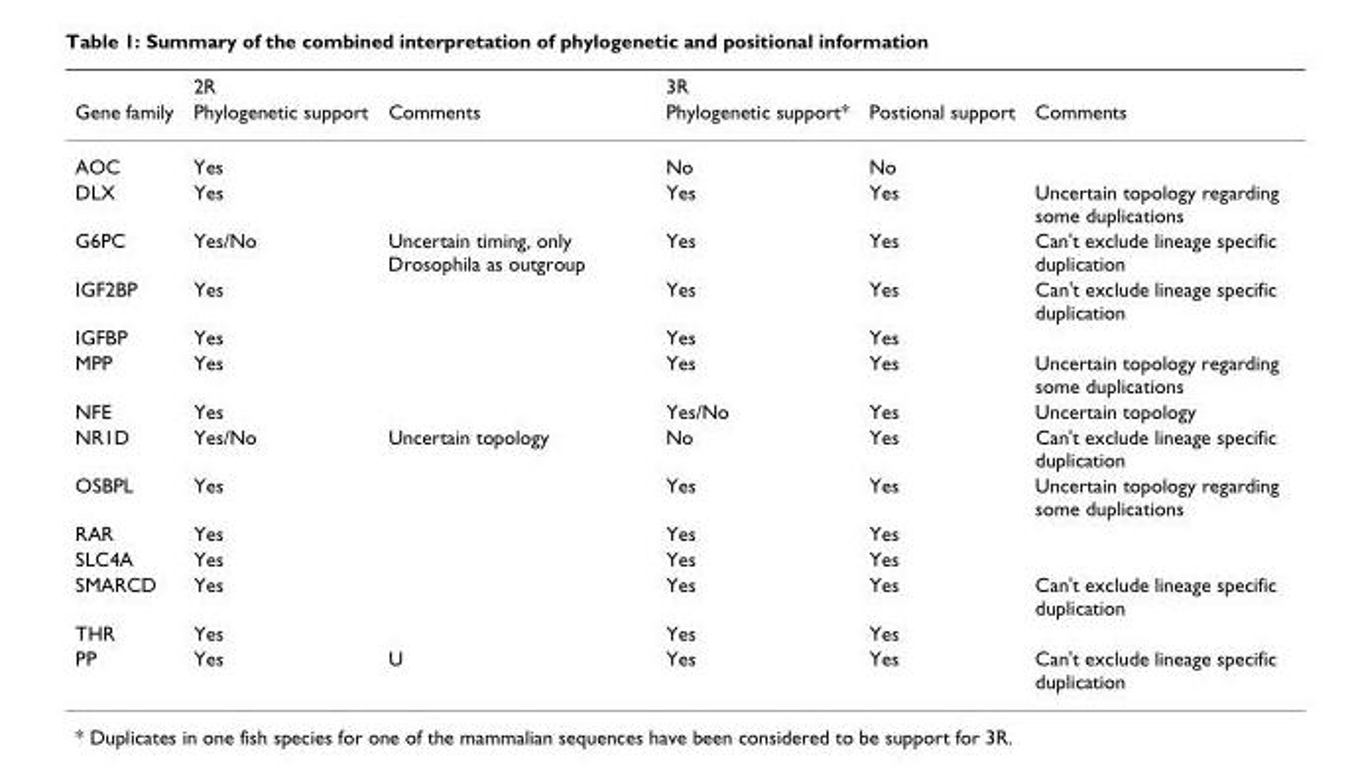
<table><thead><tr><td rowspan="2">Gene family</td><td colspan="2">2R</td><td colspan="3">3R</td></tr><tr><td>Phylogenetic support</td><td>Comments</td><td>Phylogenetic support*</td><td>Postional support</td><td>Comments</td></tr></thead><tbody><tr><td>AOC</td><td>Yes</td><td></td><td>No</td><td>No</td><td></td></tr><tr><td>DLX</td><td>Yes</td><td></td><td>Yes</td><td>Yes</td><td>Uncertain topology regarding some duplications</td></tr><tr><td>G6PC</td><td>Yes/No</td><td>Uncertain timing, only Drosophila as outgroup</td><td>Yes</td><td>Yes</td><td>Can&#x27;t exclude lineage specific duplication</td></tr><tr><td>IGF2BP</td><td>Yes</td><td></td><td>Yes</td><td>Yes</td><td>Can&#x27;t exclude lineage specific duplication</td></tr><tr><td>IGFBP</td><td>Yes</td><td></td><td>Yes</td><td>Yes</td><td></td></tr><tr><td>MPP</td><td>Yes</td><td></td><td>Yes</td><td>Yes</td><td>Uncertain topology regarding some duplications</td></tr><tr><td>NFE</td><td>Yes</td><td></td><td>Yes/No</td><td>Yes</td><td>Uncertain topology</td></tr><tr><td>NR1D</td><td>Yes/No</td><td>Uncertain topology</td><td>No</td><td>Yes</td><td>Can&#x27;t exclude lineage specific duplication</td></tr><tr><td>OSBPL</td><td>Yes</td><td></td><td>Yes</td><td>Yes</td><td>Uncertain topology regarding some duplications</td></tr><tr><td>RAR</td><td>Yes</td><td></td><td>Yes</td><td>Yes</td><td></td></tr><tr><td>SLC4A</td><td>Yes</td><td></td><td>Yes</td><td>Yes</td><td></td></tr><tr><td>SMARCD</td><td>Yes</td><td></td><td>Yes</td><td>Yes</td><td>Can&#x27;t exclude lineage specific duplication</td></tr><tr><td>THR</td><td>Yes</td><td></td><td>Yes</td><td>Yes</td><td></td></tr><tr><td>PP</td><td>Yes</td><td>U</td><td>Yes</td><td>Yes</td><td>Can&#x27;t exclude lineage specific duplication</td></tr></tbody></table>